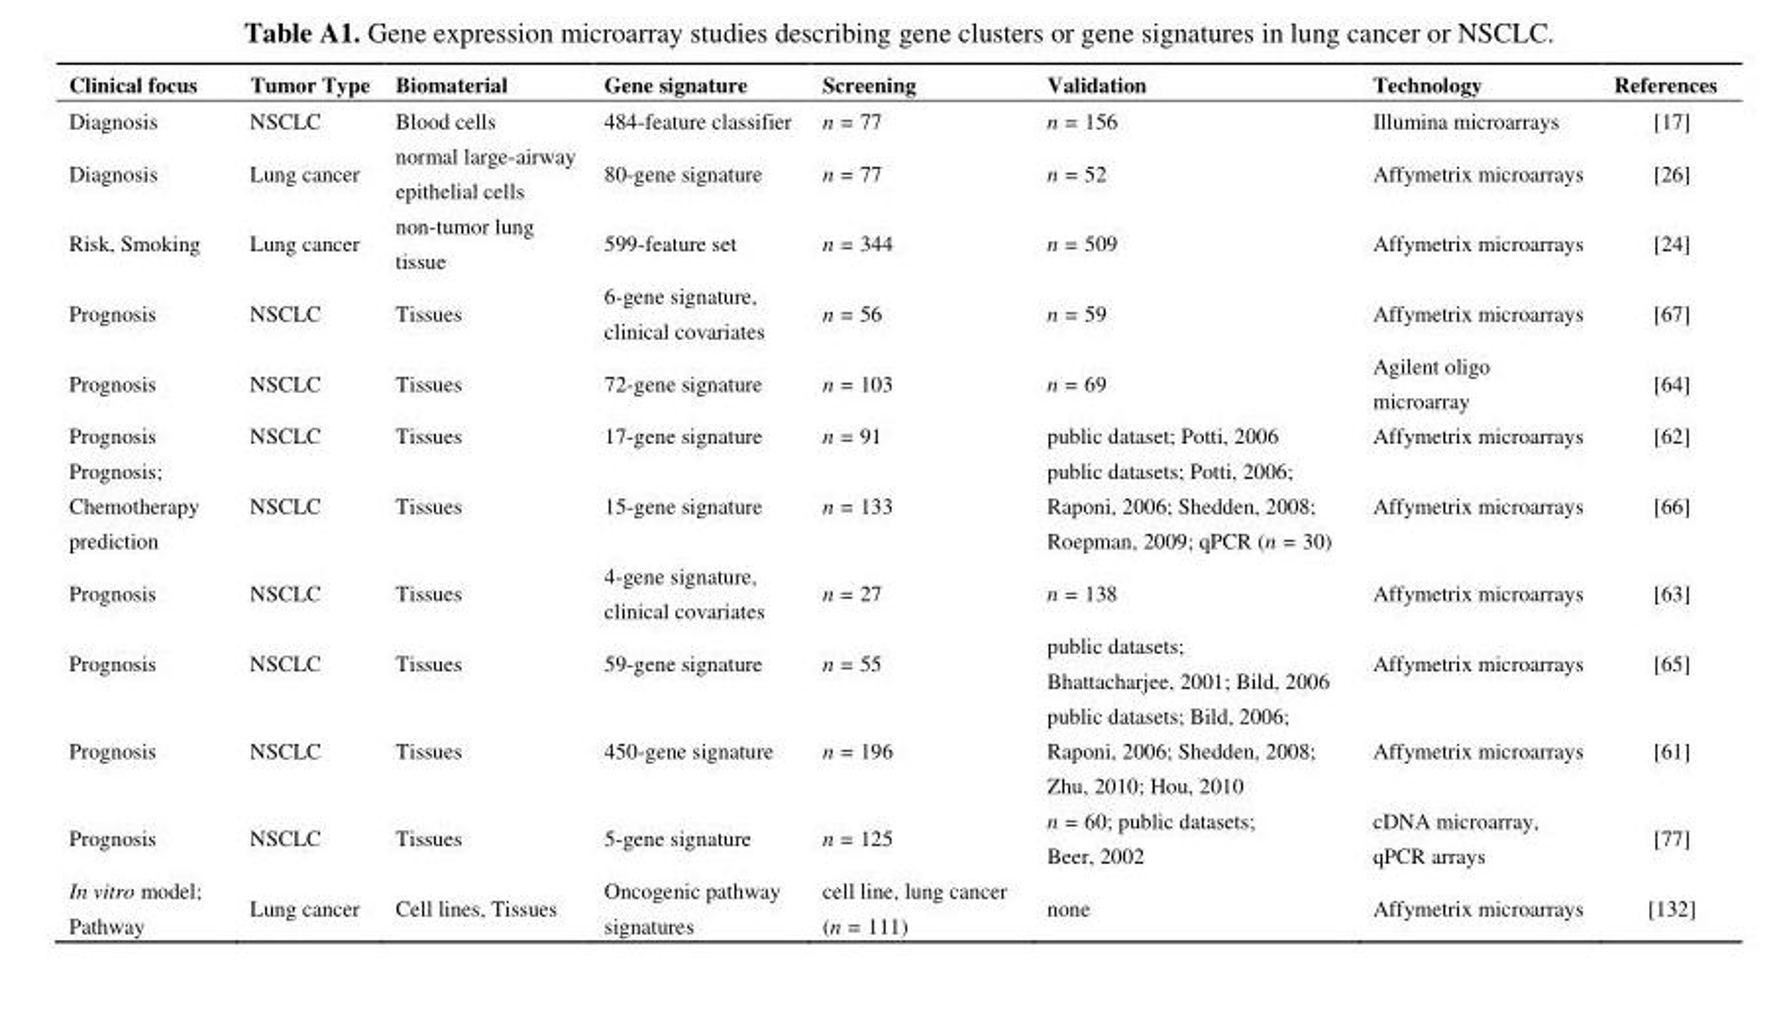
<table><thead><tr><td>Clinical focus</td><td>Tumor Type</td><td>Biomaterial</td><td>Gene signature</td><td>Screening</td><td>Validation</td><td>Technology</td><td>References</td></tr></thead><tbody><tr><td>Diagnosis</td><td>NSCLC</td><td>Blood cells</td><td>484-feature classifier</td><td>n = 77</td><td>n = 156</td><td>Illumina microarrays</td><td>[17]</td></tr><tr><td>Diagnosis</td><td>Lung cancer</td><td>normal large-airway epithelial cells</td><td>80-gene signature</td><td>n = 77</td><td>n = 52</td><td>Affymetrix microarrays</td><td>[26]</td></tr><tr><td>Risk, Smoking</td><td>Lung cancer</td><td>non-tumor lung tissue</td><td>599-feature set</td><td>n = 344</td><td>n = 509</td><td>Affymetrix microarrays</td><td>[24]</td></tr><tr><td>Prognosis</td><td>NSCLC</td><td>Tissues</td><td>6-gene signature, clinical covariates</td><td>n = 56</td><td>n = 59</td><td>Affymetrix microarrays</td><td>[67]</td></tr><tr><td>Prognosis</td><td>NSCLC</td><td>Tissues</td><td>72-gene signature</td><td>n = 103</td><td>n = 69</td><td>Agilent oligo microarray</td><td>[64]</td></tr><tr><td>Prognosis</td><td>NSCLC</td><td>Tissues</td><td>17-gene signature</td><td>n = 91</td><td>public dataset; Potti, 2006</td><td>Affymetrix microarrays</td><td>[62]</td></tr><tr><td>Prognosis; Chemotherapy prediction</td><td>NSCLC</td><td>Tissues</td><td>15-gene signature</td><td>n = 133</td><td>public datasets; Potti, 2006; Raponi, 2006; Shedden, 2008; Roepman, 2009; qPCR (n = 30)</td><td>Affymetrix microarrays</td><td>[66]</td></tr><tr><td>Prognosis</td><td>NSCLC</td><td>Tissues</td><td>4-gene signature, clinical covariates</td><td>n = 27</td><td>n = 138</td><td>Affymetrix microarrays</td><td>[63]</td></tr><tr><td>Prognosis</td><td>NSCLC</td><td>Tissues</td><td>59-gene signature</td><td>n = 55</td><td>public datasets; Bhattacharjee, 2001; Bild, 2006</td><td>Affymetrix microarrays</td><td>[65]</td></tr><tr><td>Prognosis</td><td>NSCLC</td><td>Tissues</td><td>450-gene signature</td><td>n = 196</td><td>public datasets; Bild, 2006; Raponi, 2006; Shedden, 2008; Zhu, 2010; Hou, 2010</td><td>Affymetrix microarrays</td><td>[61]</td></tr><tr><td>Prognosis</td><td>NSCLC</td><td>Tissues</td><td>5-gene signature</td><td>n = 125</td><td>n = 60; public datasets; Beer, 2002</td><td>cDNA microarray, qPCR arrays</td><td>[77]</td></tr><tr><td>In vitro model; Pathway</td><td>Lung cancer</td><td>Cell lines, Tissues</td><td>Oncogenic pathway signatures</td><td>cell line, lung cancer (n = 111)</td><td>none</td><td>Affymetrix microarrays</td><td>[132]</td></tr></tbody></table>